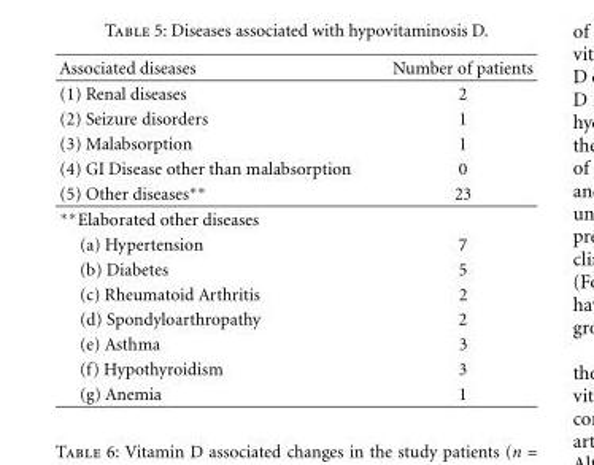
<table><thead><tr><td>Associated diseases</td><td>Number of patients</td></tr></thead><tbody><tr><td>(1) Renal diseases</td><td>2</td></tr><tr><td>(2) Seizure disorders</td><td>1</td></tr><tr><td>(3) Malabsorption</td><td>1</td></tr><tr><td>(4) GI Disease other than malabsorption</td><td>0</td></tr><tr><td>(5) Other diseases∗∗</td><td>23</td></tr><tr><td colspan="2">∗∗Elaborated other diseases</td></tr><tr><td>(a) Hypertension</td><td>7</td></tr><tr><td>(b) Diabetes</td><td>5</td></tr><tr><td>(c) Rheumatoid Arthritis</td><td>2</td></tr><tr><td>(d) Spondyloarthropathy</td><td>2</td></tr><tr><td>(e) Asthma</td><td>3</td></tr><tr><td>(f) Hypothyroidism</td><td>3</td></tr><tr><td>(g) Anemia</td><td>1</td></tr></tbody></table>